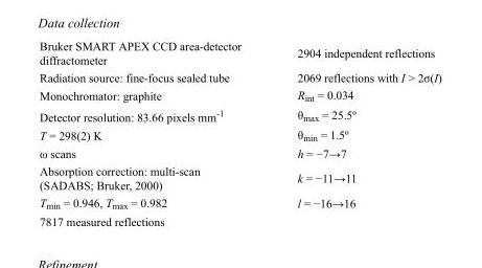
<table><tbody><tr><td>Bruker SMART APEX CCD area-detector diffractometer</td><td>2904 independent reflections</td></tr><tr><td>Radiation source: fine-focus sealed tube</td><td>2069 reflections with I &gt; 2σ(I)</td></tr><tr><td>Monochromator: graphite</td><td>R<sub>int</sub> = 0.034</td></tr><tr><td>Detector resolution: 83.66 pixels mm<sup>-1</sup></td><td>θ<sub>max</sub> = 25.5º</td></tr><tr><td>T = 298(2) K</td><td>θ<sub>min</sub> = 1.5º</td></tr><tr><td>ω scans</td><td>h = −7→7</td></tr><tr><td>Absorption correction: multi-scan (SADABS; Bruker, 2000)</td><td>k = −11→11</td></tr><tr><td>T<sub>min</sub> = 0.946, T<sub>max</sub> = 0.982</td><td>l = −16→16</td></tr><tr><td>7817 measured reflections</td><td></td></tr></tbody></table>